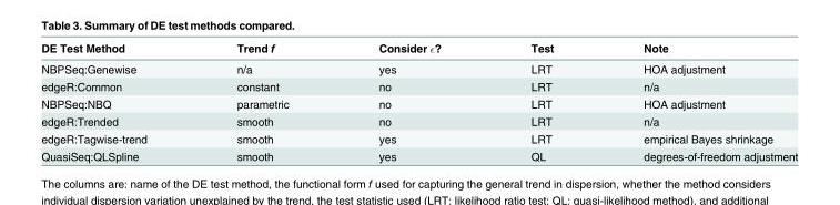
<table><thead><tr><td>DE Test Method</td><td>Trend f</td><td>Consider ε?</td><td>Test</td><td>Note</td></tr></thead><tbody><tr><td>NBPSeq:Genewise</td><td>n/a</td><td>yes</td><td>LRT</td><td>HOA adjustment</td></tr><tr><td>edgeR:Common</td><td>constant</td><td>no</td><td>LRT</td><td>n/a</td></tr><tr><td>NBPSeq:NBQ</td><td>parametric</td><td>no</td><td>LRT</td><td>HOA adjustment</td></tr><tr><td>edgeR:Trended</td><td>smooth</td><td>no</td><td>LRT</td><td>n/a</td></tr><tr><td>edgeR:Tagwise-trend</td><td>smooth</td><td>yes</td><td>LRT</td><td>empirical Bayes shrinkage</td></tr><tr><td>QuasiSeq:QLSpline</td><td>smooth</td><td>yes</td><td>QL</td><td>degrees-of-freedom adjustment</td></tr></tbody></table>